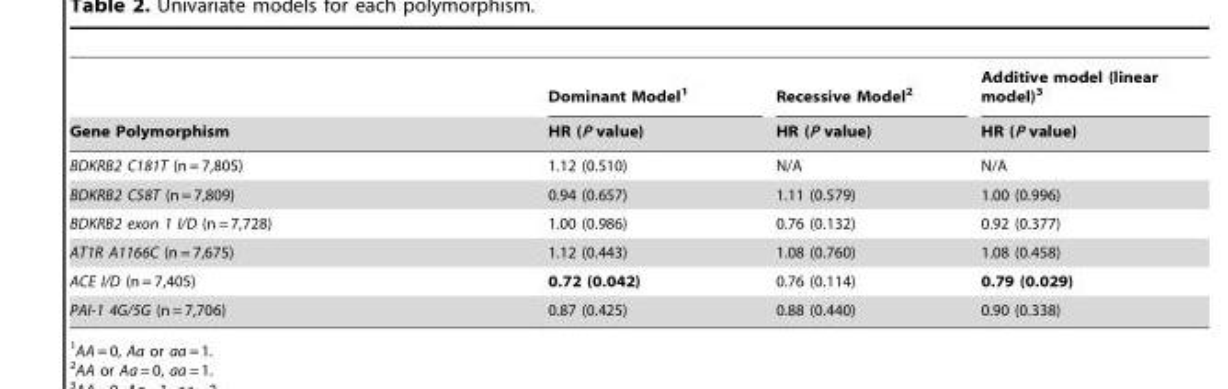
<table><thead><tr><td rowspan="2">Gene Polymorphism</td><td rowspan="2">Dominant Model<sup>1</sup> HR (P value)</td><td rowspan="2">Recessive Model<sup>2</sup> HR (P value)</td><td rowspan="2">Additive model (linear model)<sup>3</sup> HR (P value)</td></tr><tr></tr></thead><tbody><tr><td>BDKRB2 C181T (n = 7,805)</td><td>1.12 (0.510)</td><td>N/A</td><td>N/A</td></tr><tr><td>BDKRB2 C58T (n = 7,809)</td><td>0.94 (0.657)</td><td>1.11 (0.579)</td><td>1.00 (0.996)</td></tr><tr><td>BDKRB2 exon 1 I/D (n = 7,728)</td><td>1.00 (0.986)</td><td>0.76 (0.132)</td><td>0.92 (0.377)</td></tr><tr><td>AT1R A1166C (n = 7,675)</td><td>1.12 (0.443)</td><td>1.08 (0.760)</td><td>1.08 (0.458)</td></tr><tr><td>ACE I/D (n = 7,405)</td><td>0.72 (0.042)</td><td>0.76 (0.114)</td><td>0.79 (0.029)</td></tr><tr><td>PAI-1 4G/5G (n = 7,706)</td><td>0.87 (0.425)</td><td>0.88 (0.440)</td><td>0.90 (0.338)</td></tr></tbody></table>